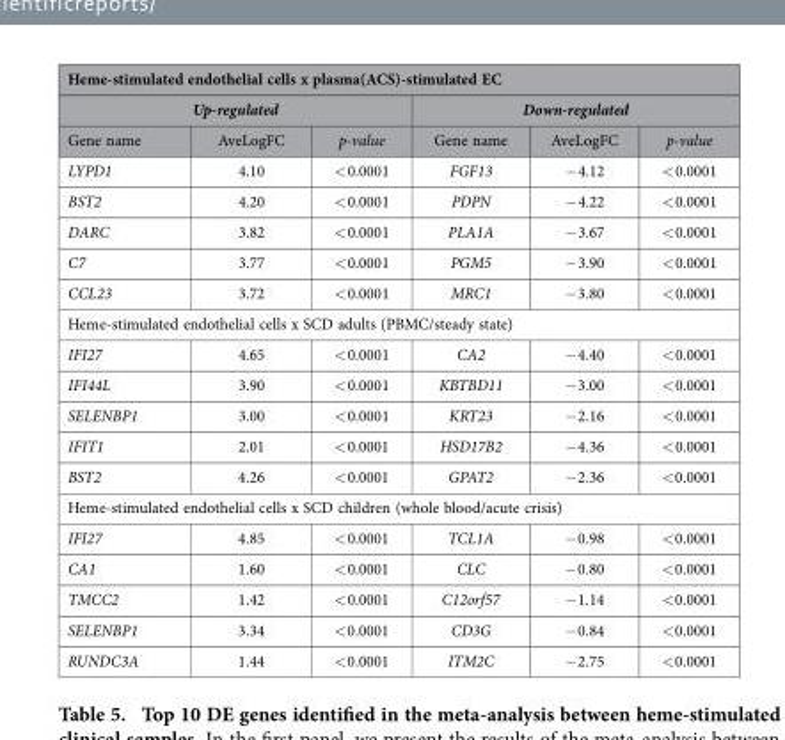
<table><thead><tr><td colspan="6">Heme-stimulated endothelial cells x plasma(ACS)-stimulated EC</td></tr><tr><td colspan="3">Up-regulated</td><td colspan="3">Down-regulated</td></tr><tr><td>Gene name</td><td>AveLogFC</td><td>p-value</td><td>Gene name</td><td>AveLogFC</td><td>p-value</td></tr></thead><tbody><tr><td>LYPD1</td><td>4.10</td><td>&lt; 0.0001</td><td>FGF13</td><td>− 4.12</td><td>&lt; 0.0001</td></tr><tr><td>BST2</td><td>4.20</td><td>&lt; 0.0001</td><td>PDPN</td><td>− 4.22</td><td>&lt; 0.0001</td></tr><tr><td>DARC</td><td>3.82</td><td>&lt; 0.0001</td><td>PLA1A</td><td>− 3.67</td><td>&lt; 0.0001</td></tr><tr><td>C7</td><td>3.77</td><td>&lt; 0.0001</td><td>PGM5</td><td>− 3.90</td><td>&lt; 0.0001</td></tr><tr><td>CCL23</td><td>3.72</td><td>&lt; 0.0001</td><td>MRC1</td><td>− 3.80</td><td>&lt; 0.0001</td></tr><tr><td colspan="6">Heme-stimulated endothelial cells x SCD adults (PBMC/steady state)</td></tr><tr><td>IFI27</td><td>4.65</td><td>&lt; 0.0001</td><td>CA2</td><td>− 4.40</td><td>&lt; 0.0001</td></tr><tr><td>IFI44L</td><td>3.90</td><td>&lt; 0.0001</td><td>KBTBD11</td><td>− 3.00</td><td>&lt; 0.0001</td></tr><tr><td>SELENBP1</td><td>3.00</td><td>&lt; 0.0001</td><td>KRT23</td><td>− 2.16</td><td>&lt; 0.0001</td></tr><tr><td>IFIT1</td><td>2.01</td><td>&lt; 0.0001</td><td>HSD17B2</td><td>− 4.36</td><td>&lt; 0.0001</td></tr><tr><td>BST2</td><td>4.26</td><td>&lt; 0.0001</td><td>GPAT2</td><td>− 2.36</td><td>&lt; 0.0001</td></tr><tr><td colspan="6">Heme-stimulated endothelial cells x SCD children (whole blood/acute crisis)</td></tr><tr><td>IFI27</td><td>4.85</td><td>&lt; 0.0001</td><td>TCL1A</td><td>− 0.98</td><td>&lt; 0.0001</td></tr><tr><td>CA1</td><td>1.60</td><td>&lt; 0.0001</td><td>CLC</td><td>− 0.80</td><td>&lt; 0.0001</td></tr><tr><td>TMCC2</td><td>1.42</td><td>&lt; 0.0001</td><td>C12orf57</td><td>− 1.14</td><td>&lt; 0.0001</td></tr><tr><td>SELENBP1</td><td>3.34</td><td>&lt; 0.0001</td><td>CD3G</td><td>− 0.84</td><td>&lt; 0.0001</td></tr><tr><td>RUNDC3A</td><td>1.44</td><td>&lt; 0.0001</td><td>ITM2C</td><td>− 2.75</td><td>&lt; 0.0001</td></tr></tbody></table>